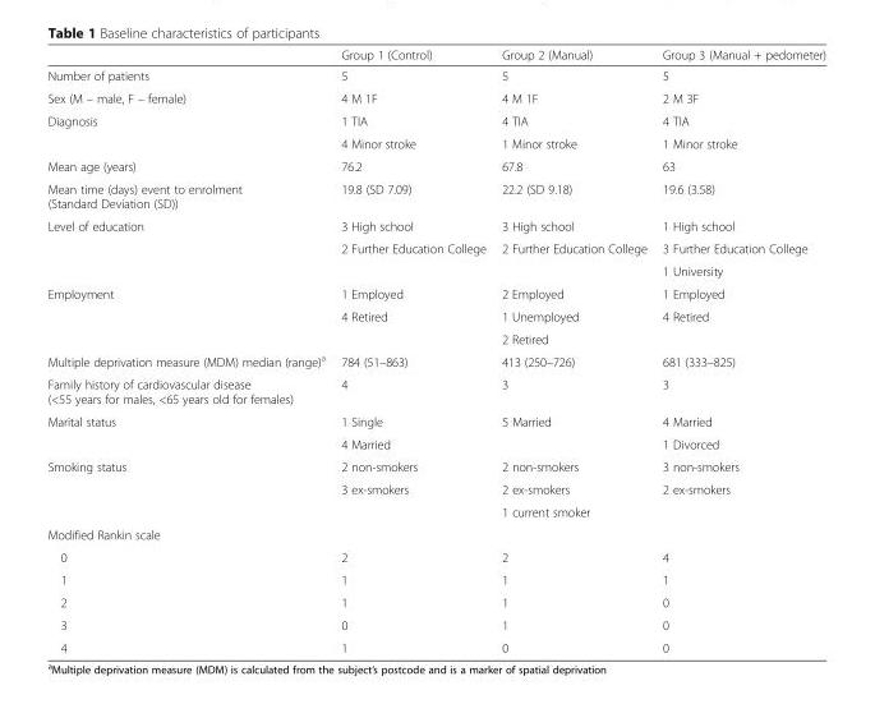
<table><thead><tr><td></td><td>Group 1 (Control)</td><td>Group 2 (Manual)</td><td>Group 3 (Manual + pedometer)</td></tr></thead><tbody><tr><td>Number of patients</td><td>5</td><td>5</td><td>5</td></tr><tr><td>Sex (M – male, F – female)</td><td>4 M 1F</td><td>4 M 1F</td><td>2 M 3F</td></tr><tr><td rowspan="2">Diagnosis</td><td>1 TIA</td><td>4 TIA</td><td>4 TIA</td></tr><tr><td>4 Minor stroke</td><td>1 Minor stroke</td><td>1 Minor stroke</td></tr><tr><td>Mean age (years)</td><td>76.2</td><td>67.8</td><td>63</td></tr><tr><td>Mean time (days) event to enrolment (Standard Deviation (SD))</td><td>19.8 (SD 7.09)</td><td>22.2 (SD 9.18)</td><td>19.6 (3.58)</td></tr><tr><td rowspan="3">Level of education</td><td>3 High school</td><td>3 High school</td><td>1 High school</td></tr><tr><td rowspan="2">2 Further Education College</td><td rowspan="2">2 Further Education College</td><td>3 Further Education College</td></tr><tr><td>1 University</td></tr><tr><td rowspan="3">Employment</td><td>1 Employed</td><td>2 Employed</td><td>1 Employed</td></tr><tr><td rowspan="2">4 Retired</td><td>1 Unemployed</td><td rowspan="2">4 Retired</td></tr><tr><td>2 Retired</td></tr><tr><td>Multiple deprivation measure (MDM) median (range)<sup>a</sup></td><td>784 (51–863)</td><td>413 (250–726)</td><td>681 (333–825)</td></tr><tr><td>Family history of cardiovascular disease (&lt;55 years for males, &lt;65 years old for females)</td><td>4</td><td>3</td><td>3</td></tr><tr><td rowspan="2">Marital status</td><td>1 Single</td><td rowspan="2">5 Married</td><td>4 Married</td></tr><tr><td>4 Married</td><td>1 Divorced</td></tr><tr><td rowspan="3">Smoking status</td><td>2 non-smokers</td><td>2 non-smokers</td><td>3 non-smokers</td></tr><tr><td rowspan="2">3 ex-smokers</td><td>2 ex-smokers</td><td rowspan="2">2 ex-smokers</td></tr><tr><td>1 current smoker</td></tr><tr><td colspan="4">Modified Rankin scale</td></tr><tr><td>0</td><td>2</td><td>2</td><td>4</td></tr><tr><td>1</td><td>1</td><td>1</td><td>1</td></tr><tr><td>2</td><td>1</td><td>1</td><td>0</td></tr><tr><td>3</td><td>0</td><td>1</td><td>0</td></tr><tr><td>4</td><td>1</td><td>0</td><td>0</td></tr></tbody></table>